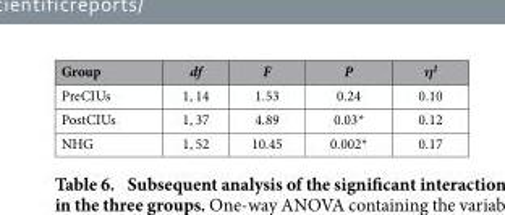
<table><thead><tr><td>Group</td><td>df</td><td>F</td><td>P</td><td>η<sup>2</sup></td></tr></thead><tbody><tr><td>PreCIUs</td><td>1, 14</td><td>1.53</td><td>0.24</td><td>0.10</td></tr><tr><td>PostCIUs</td><td>1, 37</td><td>4.89</td><td>0.03*</td><td>0.12</td></tr><tr><td>NHG</td><td>1, 52</td><td>10.45</td><td>0.002*</td><td>0.17</td></tr></tbody></table>